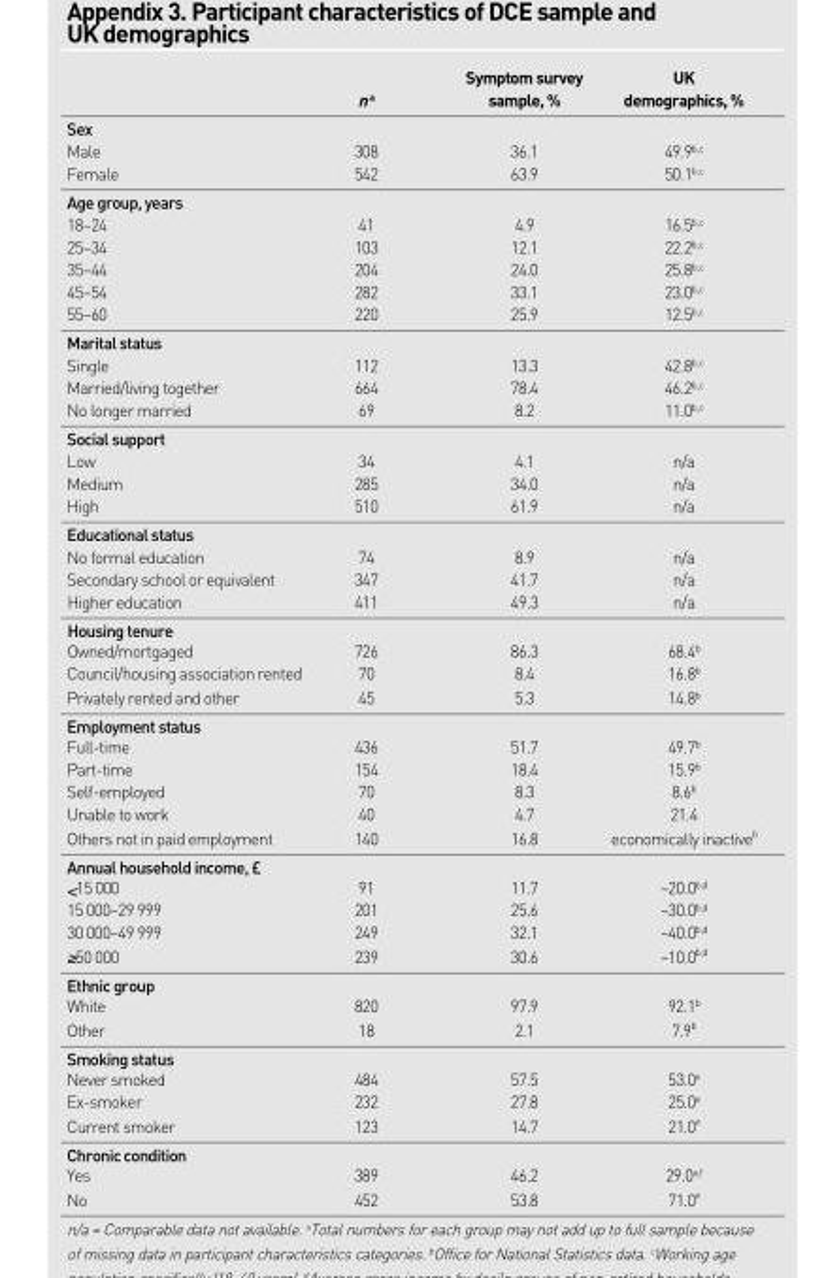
<table><thead><tr><td></td><td>n <sup>a</sup></td><td>Symptom survey sample, %</td><td>UK demographics, %</td></tr></thead><tbody><tr><td colspan="4">Sex</td></tr><tr><td>Male</td><td>308</td><td>36.1</td><td>49.9<sup>b,c</sup></td></tr><tr><td>Female</td><td>542</td><td>63.9</td><td>50.1<sup>b,c</sup></td></tr><tr><td colspan="4">Age group, years</td></tr><tr><td>18–24</td><td>41</td><td>4.9</td><td>16.5<sup>b,c</sup></td></tr><tr><td>25–34</td><td>103</td><td>12.1</td><td>22.2<sup>b,c</sup></td></tr><tr><td>35–44</td><td>204</td><td>24.0</td><td>25.8<sup>b,c</sup></td></tr><tr><td>45–54</td><td>282</td><td>33.1</td><td>23.0<sup>b,c</sup></td></tr><tr><td>55–60</td><td>220</td><td>25.9</td><td>12.5<sup>b,c</sup></td></tr><tr><td colspan="4">Marital status</td></tr><tr><td>Single</td><td>112</td><td>13.3</td><td>42.8<sup>b,c</sup></td></tr><tr><td>Married/living together</td><td>664</td><td>78.4</td><td>46.2<sup>b,c</sup></td></tr><tr><td>No longer married</td><td>69</td><td>8.2</td><td>11.0<sup>b,c</sup></td></tr><tr><td colspan="4">Social support</td></tr><tr><td>Low</td><td>34</td><td>4.1</td><td>n/a</td></tr><tr><td>Medium</td><td>285</td><td>34.0</td><td>n/a</td></tr><tr><td>High</td><td>510</td><td>61.9</td><td>n/a</td></tr><tr><td colspan="4">Educational status</td></tr><tr><td>No formal education</td><td>74</td><td>8.9</td><td>n/a</td></tr><tr><td>Secondary school or equivalent</td><td>347</td><td>41.7</td><td>n/a</td></tr><tr><td>Higher education</td><td>411</td><td>49.3</td><td>n/a</td></tr><tr><td colspan="4">Housing tenure</td></tr><tr><td>Owned/mortgaged</td><td>726</td><td>86.3</td><td>68.4<sup>b</sup></td></tr><tr><td>Council/housing association rented</td><td>70</td><td>8.4</td><td>16.8<sup>b</sup></td></tr><tr><td>Privately rented and other</td><td>45</td><td>5.3</td><td>14.8<sup>b</sup></td></tr><tr><td colspan="4">Employment status</td></tr><tr><td>Full-time</td><td>436</td><td>51.7</td><td>49.7<sup>b</sup></td></tr><tr><td>Part-time</td><td>154</td><td>18.4</td><td>15.9<sup>b</sup></td></tr><tr><td>Self-employed</td><td>70</td><td>8.3</td><td>8.6<sup>b</sup></td></tr><tr><td>Unable to work</td><td>40</td><td>4.7</td><td>21.4</td></tr><tr><td>Others not in paid employment</td><td>140</td><td>16.8</td><td>economically inactive<sup>b</sup></td></tr><tr><td colspan="4">Annual household income, £</td></tr><tr><td>&lt;15 000</td><td>91</td><td>11.7</td><td>~20.0b,d</td></tr><tr><td>15 000–29 999</td><td>201</td><td>25.6</td><td>~30.0b,d</td></tr><tr><td>30 000–49 999</td><td>249</td><td>32.1</td><td>~40.0b,d</td></tr><tr><td>≥50 000</td><td>239</td><td>30.6</td><td>~10.0b,d</td></tr><tr><td colspan="4">Ethnic group</td></tr><tr><td>White</td><td>820</td><td>97.9</td><td>92.1b</td></tr><tr><td>Other</td><td>18</td><td>2.1</td><td>7.9b</td></tr><tr><td colspan="4">Smoking status</td></tr><tr><td>Never smoked</td><td>484</td><td>57.5</td><td>53.0e</td></tr><tr><td>Ex-smoker</td><td>232</td><td>27.8</td><td>25.0e</td></tr><tr><td>Current smoker</td><td>123</td><td>14.7</td><td>21.0e</td></tr><tr><td colspan="4">Chronic condition</td></tr><tr><td>Yes</td><td>389</td><td>46.2</td><td>29.0e,f</td></tr><tr><td>No</td><td>452</td><td>53.8</td><td>71.0e</td></tr></tbody></table>